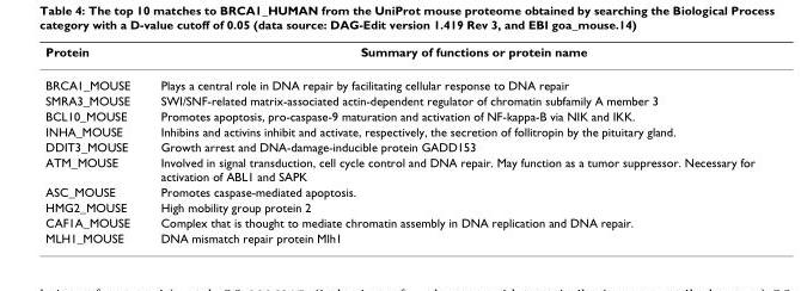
<table><thead><tr><td>Protein</td><td>Summary of functions or protein name</td></tr></thead><tbody><tr><td>BRCA1_MOUSE</td><td>Plays a central role in DNA repair by facilitating cellular response to DNA repair</td></tr><tr><td>SMRA3_MOUSE</td><td>SWI/SNF-related matrix-associated actin-dependent regulator of chromatin subfamily A member 3</td></tr><tr><td>BCL10_MOUSE</td><td>Promotes apoptosis, pro-caspase-9 maturation and activation of NF-kappa-B via NIK and IKK.</td></tr><tr><td>INHA_MOUSE</td><td>Inhibins and activins inhibit and activate, respectively, the secretion of follitropin by the pituitary gland.</td></tr><tr><td>DDIT3_MOUSE</td><td>Growth arrest and DNA-damage-inducible protein GADD153</td></tr><tr><td>ATM_MOUSE</td><td>Involved in signal transduction, cell cycle control and DNA repair. May function as a tumor suppressor. Necessary for activation of ABL1 and SAPK</td></tr><tr><td>ASC_MOUSE</td><td>Promotes caspase-mediated apoptosis.</td></tr><tr><td>HMG2_MOUSE</td><td>High mobility group protein 2</td></tr><tr><td>CAF1A_MOUSE</td><td>Complex that is thought to mediate chromatin assembly in DNA replication and DNA repair.</td></tr><tr><td>MLH1_MOUSE</td><td>DNA mismatch repair protein Mlh1</td></tr></tbody></table>